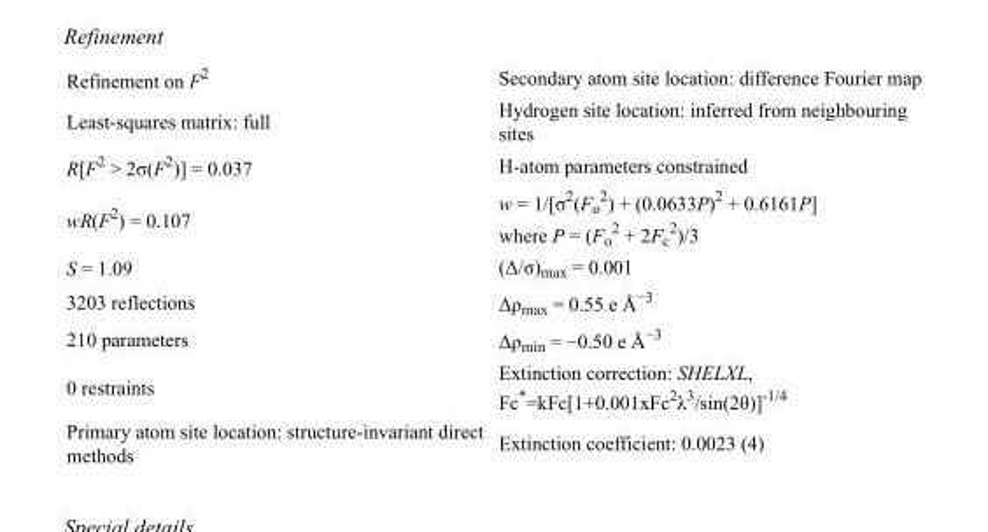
<table><tbody><tr><td>Refinement on F<sup>2</sup></td><td>Secondary atom site location: difference Fourier map</td></tr><tr><td>Least-squares matrix: full</td><td>Hydrogen site location: inferred from neighbouring sites</td></tr><tr><td>R[F<sup>2</sup> &gt; 2σ(F<sup>2</sup>)] = 0.037</td><td>H-atom parameters constrained</td></tr><tr><td>wR(F<sup>2</sup>) = 0.107</td><td>w = 1/[σ<sup>2</sup>(F<sub>o</sub> <sup>2</sup>) + (0.0633P)<sup>2</sup> + 0.6161P] where P = (F<sub>o</sub> <sup>2</sup> + 2F<sub>c</sub> <sup>2</sup>)/3</td></tr><tr><td>S = 1.09</td><td>(Δ/σ)<sub>max</sub> = 0.001</td></tr><tr><td>3203 reflections</td><td>Δρ<sub>max</sub> = 0.55 e Å<sup>−3</sup></td></tr><tr><td>210 parameters</td><td>Δρ<sub>min</sub> = −0.50 e Å<sup>−3</sup></td></tr><tr><td>0 restraints</td><td>Extinction correction: SHELXL, Fc*=kFc[1+0.001xFc<sup>2</sup>λ<sup>3</sup>/sin(2θ)]<sup>-1/4</sup></td></tr><tr><td>Primary atom site location: structure-invariant direct methods</td><td>Extinction coefficient: 0.0023 (4)</td></tr></tbody></table>